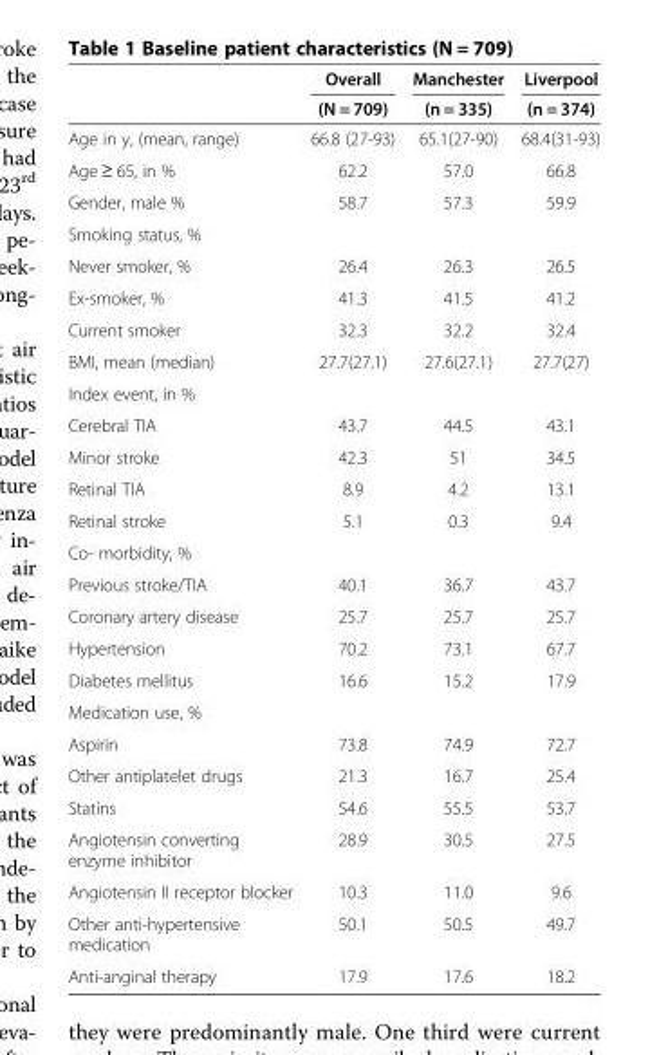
<table><thead><tr><td rowspan="2"></td><td rowspan="2">Overall (N = 709)</td><td rowspan="2">Manchester (n = 335)</td><td rowspan="2">Liverpool (n = 374)</td></tr><tr></tr></thead><tbody><tr><td>Age in y, (mean, range)</td><td>66.8 (27-93)</td><td>65.1(27-90)</td><td>68.4(31-93)</td></tr><tr><td>Age ≥ 65, in %</td><td>62.2</td><td>57.0</td><td>66.8</td></tr><tr><td>Gender, male %</td><td>58.7</td><td>57.3</td><td>59.9</td></tr><tr><td colspan="4">Smoking status, %</td></tr><tr><td>Never smoker, %</td><td>26.4</td><td>26.3</td><td>26.5</td></tr><tr><td>Ex-smoker, %</td><td>41.3</td><td>41.5</td><td>41.2</td></tr><tr><td>Current smoker</td><td>32.3</td><td>32.2</td><td>32.4</td></tr><tr><td>BMI, mean (median)</td><td>27.7(27.1)</td><td>27.6(27.1)</td><td>27.7(27)</td></tr><tr><td colspan="4">Index event, in %</td></tr><tr><td>Cerebral TIA</td><td>43.7</td><td>44.5</td><td>43.1</td></tr><tr><td>Minor stroke</td><td>42.3</td><td>51</td><td>34.5</td></tr><tr><td>Retinal TIA</td><td>8.9</td><td>4.2</td><td>13.1</td></tr><tr><td>Retinal stroke</td><td>5.1</td><td>0.3</td><td>9.4</td></tr><tr><td colspan="4">Co- morbidity, %</td></tr><tr><td>Previous stroke/TIA</td><td>40.1</td><td>36.7</td><td>43.7</td></tr><tr><td>Coronary artery disease</td><td>25.7</td><td>25.7</td><td>25.7</td></tr><tr><td>Hypertension</td><td>70.2</td><td>73.1</td><td>67.7</td></tr><tr><td>Diabetes mellitus</td><td>16.6</td><td>15.2</td><td>17.9</td></tr><tr><td colspan="4">Medication use, %</td></tr><tr><td>Aspirin</td><td>73.8</td><td>74.9</td><td>72.7</td></tr><tr><td>Other antiplatelet drugs</td><td>21.3</td><td>16.7</td><td>25.4</td></tr><tr><td>Statins</td><td>54.6</td><td>55.5</td><td>53.7</td></tr><tr><td>Angiotensin converting enzyme inhibitor</td><td>28.9</td><td>30.5</td><td>27.5</td></tr><tr><td>Angiotensin II receptor blocker</td><td>10.3</td><td>11.0</td><td>9.6</td></tr><tr><td>Other anti-hypertensive medication</td><td>50.1</td><td>50.5</td><td>49.7</td></tr><tr><td>Anti-anginal therapy</td><td>17.9</td><td>17.6</td><td>18.2</td></tr></tbody></table>